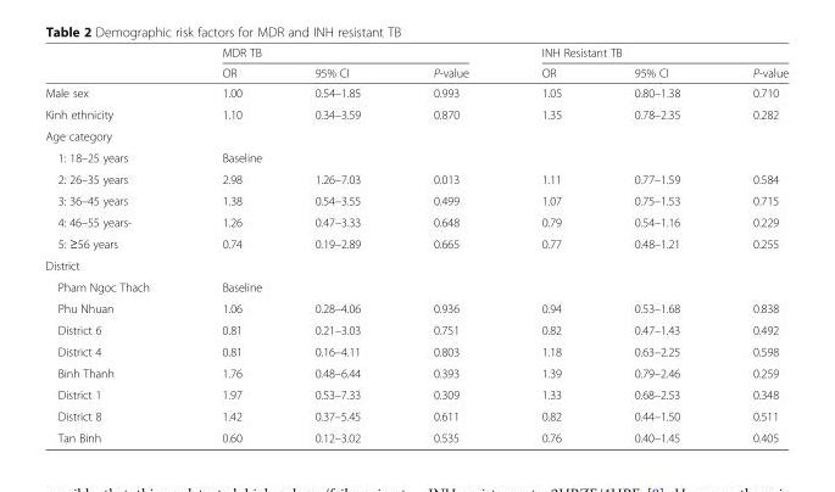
<table><thead><tr><td rowspan="2"></td><td colspan="3">MDR TB</td><td colspan="3">INH Resistant TB</td></tr><tr><td>OR</td><td>95% CI</td><td>P-value</td><td>OR</td><td>95% CI</td><td>P-value</td></tr></thead><tbody><tr><td>Male sex</td><td>1.00</td><td>0.54–1.85</td><td>0.993</td><td>1.05</td><td>0.80–1.38</td><td>0.710</td></tr><tr><td>Kinh ethnicity</td><td>1.10</td><td>0.34–3.59</td><td>0.870</td><td>1.35</td><td>0.78–2.35</td><td>0.282</td></tr><tr><td colspan="7">Age category</td></tr><tr><td>1: 18–25 years</td><td colspan="6">Baseline</td></tr><tr><td>2: 26–35 years</td><td>2.98</td><td>1.26–7.03</td><td>0.013</td><td>1.11</td><td>0.77–1.59</td><td>0.584</td></tr><tr><td>3: 36–45 years</td><td>1.38</td><td>0.54–3.55</td><td>0.499</td><td>1.07</td><td>0.75–1.53</td><td>0.715</td></tr><tr><td>4: 46–55 years-</td><td>1.26</td><td>0.47–3.33</td><td>0.648</td><td>0.79</td><td>0.54–1.16</td><td>0.229</td></tr><tr><td>5: ≥56 years</td><td>0.74</td><td>0.19–2.89</td><td>0.665</td><td>0.77</td><td>0.48–1.21</td><td>0.255</td></tr><tr><td colspan="7">District</td></tr><tr><td>Pham Ngoc Thach</td><td colspan="6">Baseline</td></tr><tr><td>Phu Nhuan</td><td>1.06</td><td>0.28–4.06</td><td>0.936</td><td>0.94</td><td>0.53–1.68</td><td>0.838</td></tr><tr><td>District 6</td><td>0.81</td><td>0.21–3.03</td><td>0.751</td><td>0.82</td><td>0.47–1.43</td><td>0.492</td></tr><tr><td>District 4</td><td>0.81</td><td>0.16–4.11</td><td>0.803</td><td>1.18</td><td>0.63–2.25</td><td>0.598</td></tr><tr><td>Binh Thanh</td><td>1.76</td><td>0.48–6.44</td><td>0.393</td><td>1.39</td><td>0.79–2.46</td><td>0.259</td></tr><tr><td>District 1</td><td>1.97</td><td>0.53–7.33</td><td>0.309</td><td>1.33</td><td>0.68–2.53</td><td>0.348</td></tr><tr><td>District 8</td><td>1.42</td><td>0.37–5.45</td><td>0.611</td><td>0.82</td><td>0.44–1.50</td><td>0.511</td></tr><tr><td>Tan Binh</td><td>0.60</td><td>0.12–3.02</td><td>0.535</td><td>0.76</td><td>0.40–1.45</td><td>0.405</td></tr></tbody></table>